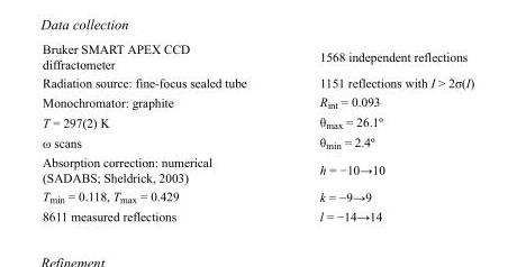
<table><tbody><tr><td>Bruker SMART APEX CCD diffractometer</td><td>1568 independent reflections</td></tr><tr><td>Radiation source: fine-focus sealed tube</td><td>1151 reflections with I &gt; 2σ(I)</td></tr><tr><td>Monochromator: graphite</td><td>R<sub>int</sub> = 0.093</td></tr><tr><td>T = 297(2) K</td><td>θ<sub>max</sub> = 26.1º</td></tr><tr><td>ω scans</td><td>θ<sub>min</sub> = 2.4º</td></tr><tr><td>Absorption correction: numerical (SADABS; Sheldrick, 2003)</td><td>h = −10→10</td></tr><tr><td>T<sub>min</sub> = 0.118, T<sub>max</sub> = 0.429</td><td>k = −9→9</td></tr><tr><td>8611 measured reflections</td><td>l = −14→14</td></tr></tbody></table>